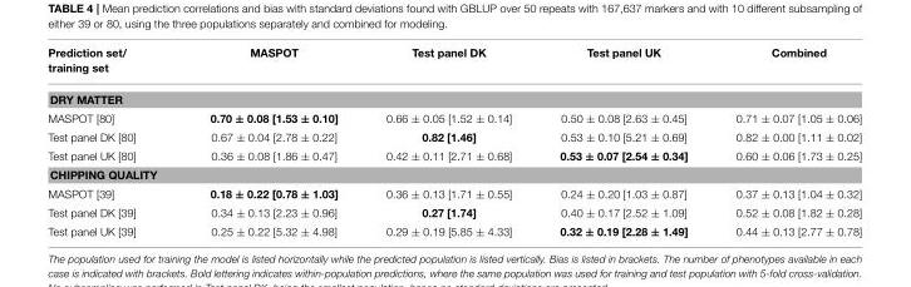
<table><thead><tr><td>Prediction set/ training set</td><td>MASPOT</td><td>Test panel DK</td><td>Test panel UK</td><td>Combined</td></tr></thead><tbody><tr><td colspan="5">DRY MATTER</td></tr><tr><td>MASPOT [80]</td><td>0.70 ± 0.08 [1.53 ± 0.10]</td><td>0.66 ± 0.05 [1.52 ± 0.14]</td><td>0.50 ± 0.08 [2.63 ± 0.45]</td><td>0.71 ± 0.07 [1.05 ± 0.06]</td></tr><tr><td>Test panel DK [80]</td><td>0.67 ± 0.04 [2.78 ± 0.22]</td><td>0.82 [1.46]</td><td>0.53 ± 0.10 [5.21 ± 0.69]</td><td>0.82 ± 0.00 [1.11 ± 0.02]</td></tr><tr><td>Test panel UK [80]</td><td>0.36 ± 0.08 [1.86 ± 0.47]</td><td>0.42 ± 0.11 [2.71 ± 0.68]</td><td>0.53 ± 0.07 [2.54 ± 0.34]</td><td>0.60 ± 0.06 [1.73 ± 0.25]</td></tr><tr><td colspan="5">CHIPPING QUALITY</td></tr><tr><td>MASPOT [39]</td><td>0.18 ± 0.22 [0.78 ± 1.03]</td><td>0.36 ± 0.13 [1.71 ± 0.55]</td><td>0.24 ± 0.20 [1.03 ± 0.87]</td><td>0.37 ± 0.13 [1.04 ± 0.32]</td></tr><tr><td>Test panel DK [39]</td><td>0.34 ± 0.13 [2.23 ± 0.96]</td><td>0.27 [1.74]</td><td>0.40 ± 0.17 [2.52 ± 1.09]</td><td>0.52 ± 0.08 [1.82 ± 0.28]</td></tr><tr><td>Test panel UK [39]</td><td>0.25 ± 0.22 [5.32 ± 4.98]</td><td>0.29 ± 0.19 [5.85 ± 4.33]</td><td>0.32 ± 0.19 [2.28 ± 1.49]</td><td>0.44 ± 0.13 [2.77 ± 0.78]</td></tr></tbody></table>